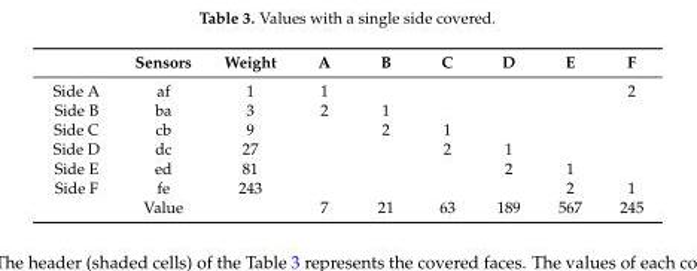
<table><thead><tr><td></td><td>Sensors</td><td>Weight</td><td>A</td><td>B</td><td>C</td><td>D</td><td>E</td><td>F</td></tr></thead><tbody><tr><td>Side A</td><td>af</td><td>1</td><td>1</td><td></td><td></td><td></td><td></td><td>2</td></tr><tr><td>Side B</td><td>ba</td><td>3</td><td>2</td><td>1</td><td></td><td></td><td></td><td></td></tr><tr><td>Side C</td><td>cb</td><td>9</td><td></td><td>2</td><td>1</td><td></td><td></td><td></td></tr><tr><td>Side D</td><td>dc</td><td>27</td><td></td><td></td><td>2</td><td>1</td><td></td><td></td></tr><tr><td>Side E</td><td>ed</td><td>81</td><td></td><td></td><td></td><td>2</td><td>1</td><td></td></tr><tr><td rowspan="2">Side F</td><td>fe</td><td>243</td><td></td><td></td><td></td><td></td><td>2</td><td>1</td></tr><tr><td>Value</td><td></td><td>7</td><td>21</td><td>63</td><td>189</td><td>567</td><td>245</td></tr></tbody></table>